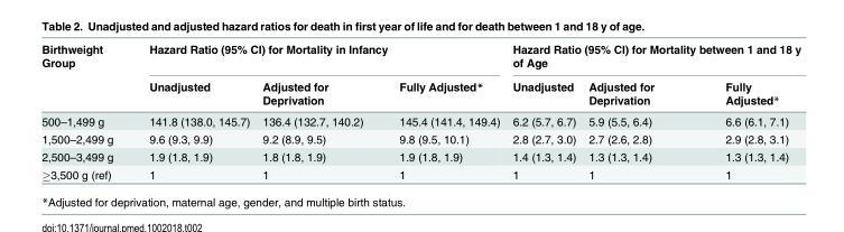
<table><thead><tr><td rowspan="2">Birthweight Group</td><td colspan="3">Hazard Ratio (95% CI) for Mortality in Infancy</td><td colspan="3">Hazard Ratio (95% CI) for Mortality between 1 and 18 y of Age</td></tr><tr><td>Unadjusted</td><td>Adjusted for Deprivation</td><td>Fully Adjusted*</td><td>Unadjusted</td><td>Adjusted for Deprivation</td><td>Fully Adjusted*</td></tr></thead><tbody><tr><td>500–1,499 g</td><td>141.8 (138.0, 145.7)</td><td>136.4 (132.7, 140.2)</td><td>145.4 (141.4, 149.4)</td><td>6.2 (5.7, 6.7)</td><td>5.9 (5.5, 6.4)</td><td>6.6 (6.1, 7.1)</td></tr><tr><td>1,500–2,499 g</td><td>9.6 (9.3, 9.9)</td><td>9.2 (8.9, 9.5)</td><td>9.8 (9.5, 10.1)</td><td>2.8 (2.7, 3.0)</td><td>2.7 (2.6, 2.8)</td><td>2.9 (2.8, 3.1)</td></tr><tr><td>2,500–3,499 g</td><td>1.9 (1.8, 1.9)</td><td>1.8 (1.8, 1.9)</td><td>1.9 (1.8, 1.9)</td><td>1.4 (1.3, 1.4)</td><td>1.3 (1.3, 1.4)</td><td>1.3 (1.3, 1.4)</td></tr><tr><td>≥3,500 g (ref)</td><td>1</td><td>1</td><td>1</td><td>1</td><td>1</td><td>1</td></tr></tbody></table>